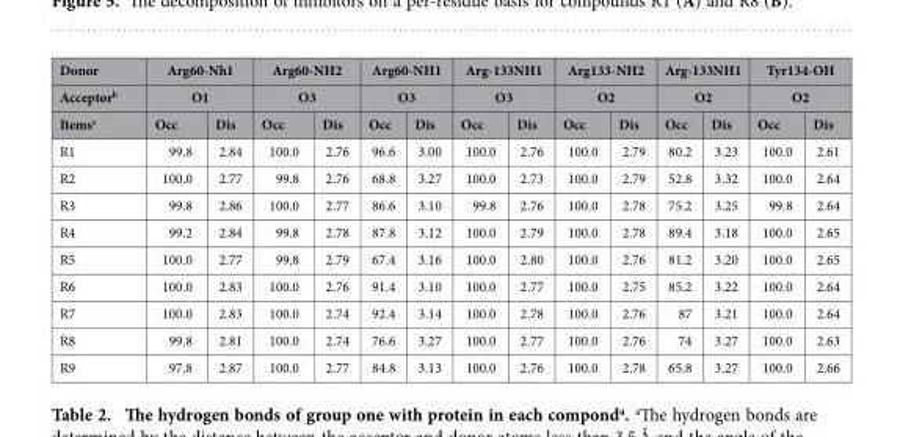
<table><thead><tr><td rowspan="3">Donor Acceptor<sup>b</sup> Items<sup>c</sup></td><td rowspan="2" colspan="2">Arg60-Nh1 O1</td><td rowspan="2" colspan="2">Arg60-NH2 O3</td><td rowspan="2" colspan="2">Arg60-NH1 O3</td><td rowspan="2" colspan="2">Arg-133NH1 O3</td><td rowspan="2" colspan="2">Arg133-NH2 O2</td><td rowspan="2" colspan="2">Arg-133NH1 O2</td><td rowspan="2" colspan="2">Tyr134-OH O2</td></tr><tr></tr><tr><td>Occ</td><td>Dis</td><td>Occ</td><td>Dis</td><td>Occ</td><td>Dis</td><td>Occ</td><td>Dis</td><td>Occ</td><td>Dis</td><td>Occ</td><td>Dis</td><td>Occ</td><td>Dis</td></tr></thead><tbody><tr><td>R1</td><td>99.8</td><td>2.84</td><td>100.0</td><td>2.76</td><td>96.6</td><td>3.00</td><td>100.0</td><td>2.76</td><td>100.0</td><td>2.79</td><td>80.2</td><td>3.23</td><td>100.0</td><td>2.61</td></tr><tr><td>R2</td><td>100.0</td><td>2.77</td><td>99.8</td><td>2.76</td><td>68.8</td><td>3.27</td><td>100.0</td><td>2.73</td><td>100.0</td><td>2.79</td><td>52.8</td><td>3.32</td><td>100.0</td><td>2.64</td></tr><tr><td>R3</td><td>99.8</td><td>2.86</td><td>100.0</td><td>2.77</td><td>86.6</td><td>3.10</td><td>99.8</td><td>2.76</td><td>100.0</td><td>2.78</td><td>75.2</td><td>3.25</td><td>99.8</td><td>2.64</td></tr><tr><td>R4</td><td>99.2</td><td>2.84</td><td>99.8</td><td>2.78</td><td>87.8</td><td>3.12</td><td>100.0</td><td>2.79</td><td>100.0</td><td>2.78</td><td>89.4</td><td>3.18</td><td>100.0</td><td>2.65</td></tr><tr><td>R5</td><td>100.0</td><td>2.77</td><td>99.8</td><td>2.79</td><td>67.4</td><td>3.16</td><td>100.0</td><td>2.80</td><td>100.0</td><td>2.76</td><td>81.2</td><td>3.20</td><td>100.0</td><td>2.65</td></tr><tr><td>R6</td><td>100.0</td><td>2.83</td><td>100.0</td><td>2.76</td><td>91.4</td><td>3.10</td><td>100.0</td><td>2.77</td><td>100.0</td><td>2.75</td><td>85.2</td><td>3.22</td><td>100.0</td><td>2.64</td></tr><tr><td>R7</td><td>100.0</td><td>2.83</td><td>100.0</td><td>2.74</td><td>92.4</td><td>3.14</td><td>100.0</td><td>2.78</td><td>100.0</td><td>2.76</td><td>87</td><td>3.21</td><td>100.0</td><td>2.64</td></tr><tr><td>R8</td><td>99.8</td><td>2.81</td><td>100.0</td><td>2.74</td><td>76.6</td><td>3.27</td><td>100.0</td><td>2.77</td><td>100.0</td><td>2.76</td><td>74</td><td>3.27</td><td>100.0</td><td>2.63</td></tr><tr><td>R9</td><td>97.8</td><td>2.87</td><td>100.0</td><td>2.77</td><td>84.8</td><td>3.13</td><td>100.0</td><td>2.76</td><td>100.0</td><td>2.78</td><td>65.8</td><td>3.27</td><td>100.0</td><td>2.66</td></tr></tbody></table>